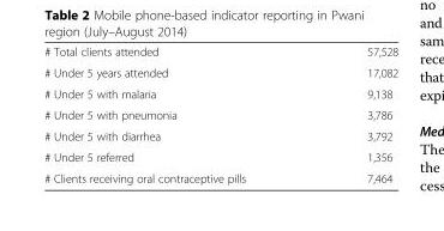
<table><tbody><tr><td># Total clients attended</td><td>57,528</td></tr><tr><td># Under 5 years attended</td><td>17,082</td></tr><tr><td># Under 5 with malaria</td><td>9,138</td></tr><tr><td># Under 5 with pneumonia</td><td>3,786</td></tr><tr><td># Under 5 with diarrhea</td><td>3,792</td></tr><tr><td># Under 5 referred</td><td>1,356</td></tr><tr><td># Clients receiving oral contraceptive pills</td><td>7,464</td></tr></tbody></table>